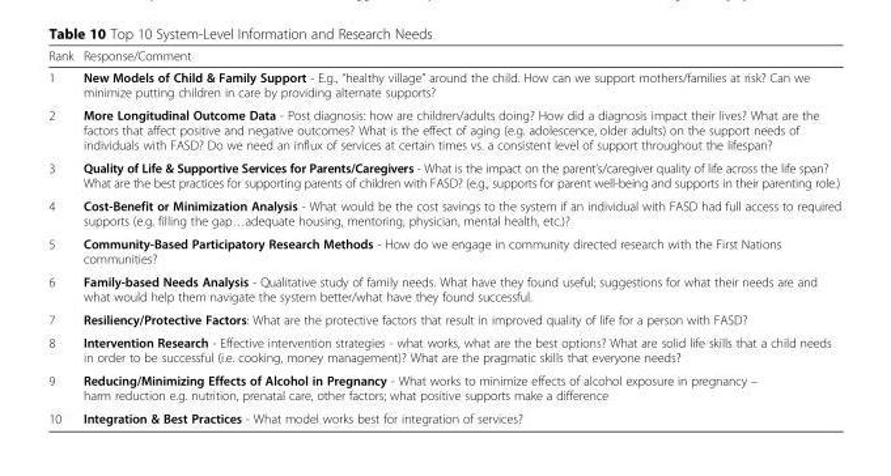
<table><thead><tr><td>Rank</td><td>Response/Comment</td></tr></thead><tbody><tr><td>1</td><td>New Models of Child &amp; Family Support - E.g., “healthy village” around the child. How can we support mothers/families at risk? Can we minimize putting children in care by providing alternate supports?</td></tr><tr><td>2</td><td>More Longitudinal Outcome Data - Post diagnosis: how are children/adults doing? How did a diagnosis impact their lives? What are the factors that affect positive and negative outcomes? What is the effect of aging (e.g. adolescence, older adults) on the support needs of individuals with FASD? Do we need an influx of services at certain times vs. a consistent level of support throughout the lifespan?</td></tr><tr><td>3</td><td>Quality of Life &amp; Supportive Services for Parents/Caregivers - What is the impact on the parent’s/caregiver quality of life across the life span? What are the best practices for supporting parents of children with FASD? (e.g., supports for parent well-being and supports in their parenting role.)</td></tr><tr><td>4</td><td>Cost-Benefit or Minimization Analysis - What would be the cost savings to the system if an individual with FASD had full access to required supports (e.g. filling the gap…adequate housing, mentoring, physician, mental health, etc.)?</td></tr><tr><td>5</td><td>Community-Based Participatory Research Methods - How do we engage in community directed research with the First Nations communities?</td></tr><tr><td>6</td><td>Family-based Needs Analysis - Qualitative study of family needs. What have they found useful; suggestions for what their needs are and what would help them navigate the system better/what have they found successful.</td></tr><tr><td>7</td><td>Resiliency/Protective Factors: What are the protective factors that result in improved quality of life for a person with FASD?</td></tr><tr><td>8</td><td>Intervention Research - Effective intervention strategies - what works, what are the best options? What are solid life skills that a child needs in order to be successful (i.e. cooking, money management)? What are the pragmatic skills that everyone needs?</td></tr><tr><td>9</td><td>Reducing/Minimizing Effects of Alcohol in Pregnancy - What works to minimize effects of alcohol exposure in pregnancy – harm reduction e.g. nutrition, prenatal care, other factors; what positive supports make a difference</td></tr><tr><td>10</td><td>Integration &amp; Best Practices - What model works best for integration of services?</td></tr></tbody></table>